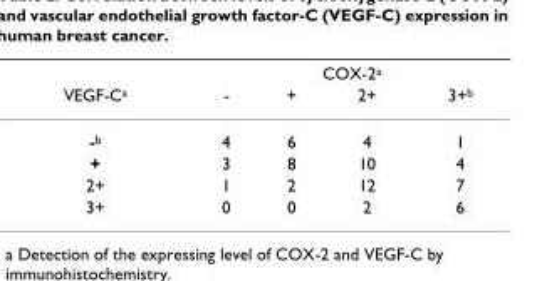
<table><thead><tr><td rowspan="2">VEGF-C<sup>a</sup></td><td colspan="4">COX-2<sup>a</sup></td></tr><tr><td>-</td><td>+</td><td>2+</td><td>3+<sup>b</sup></td></tr></thead><tbody><tr><td>-<sup>b</sup></td><td>4</td><td>6</td><td>4</td><td>1</td></tr><tr><td>+</td><td>3</td><td>8</td><td>10</td><td>4</td></tr><tr><td>2+</td><td>1</td><td>2</td><td>12</td><td>7</td></tr><tr><td>3+</td><td>0</td><td>0</td><td>2</td><td>6</td></tr></tbody></table>